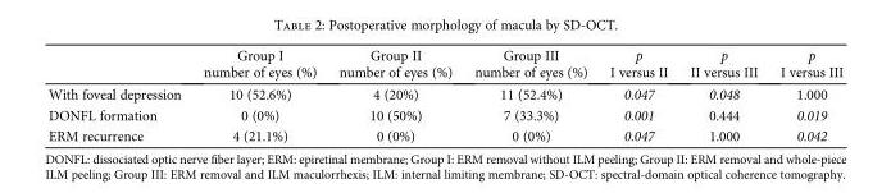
<table><thead><tr><td></td><td>Group I number of eyes (%)</td><td>Group II number of eyes (%)</td><td>Group III number of eyes (%)</td><td>p I versus II</td><td>p II versus III</td><td>p I versus III</td></tr></thead><tbody><tr><td>With foveal depression</td><td>10 (52.6%)</td><td>4 (20%)</td><td>11 (52.4%)</td><td>0.047</td><td>0.048</td><td>1.000</td></tr><tr><td>DONFL formation</td><td>0 (0%)</td><td>10 (50%)</td><td>7 (33.3%)</td><td>0.001</td><td>0.444</td><td>0.019</td></tr><tr><td>ERM recurrence</td><td>4 (21.1%)</td><td>0 (0%)</td><td>0 (0%)</td><td>0.047</td><td>1.000</td><td>0.042</td></tr></tbody></table>